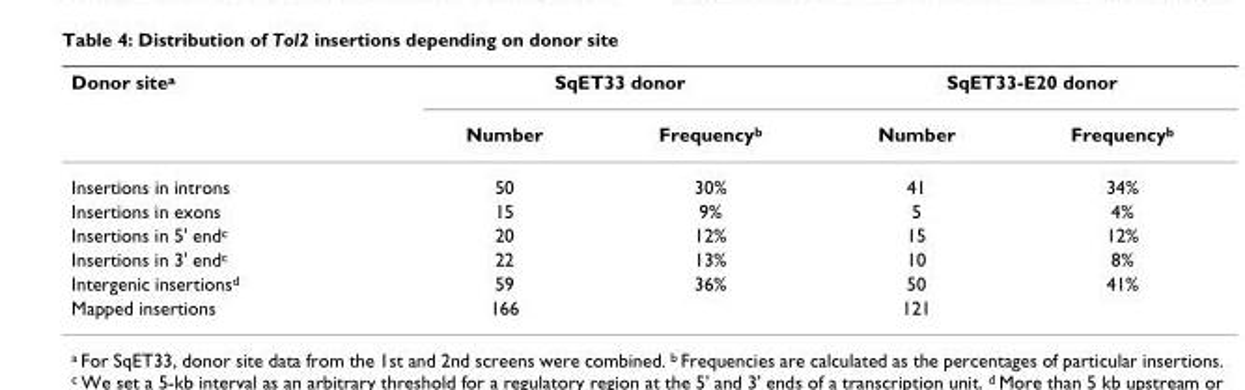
<table><thead><tr><td rowspan="2">Donor site<sup>a</sup></td><td colspan="2">SqET33 donor</td><td colspan="2">SqET33-E20 donor</td></tr><tr><td>Number</td><td>Frequency<sup>b</sup></td><td>Number</td><td>Frequency<sup>b</sup></td></tr></thead><tbody><tr><td>Insertions in introns</td><td>50</td><td>30%</td><td>41</td><td>34%</td></tr><tr><td>Insertions in exons</td><td>15</td><td>9%</td><td>5</td><td>4%</td></tr><tr><td>Insertions in 5&#x27; end<sup>c</sup></td><td>20</td><td>12%</td><td>15</td><td>12%</td></tr><tr><td>Insertions in 3&#x27; end<sup>c</sup></td><td>22</td><td>13%</td><td>10</td><td>8%</td></tr><tr><td>Intergenic insertions<sup>d</sup></td><td>59</td><td>36%</td><td>50</td><td>41%</td></tr><tr><td>Mapped insertions</td><td>166</td><td></td><td>121</td><td></td></tr></tbody></table>